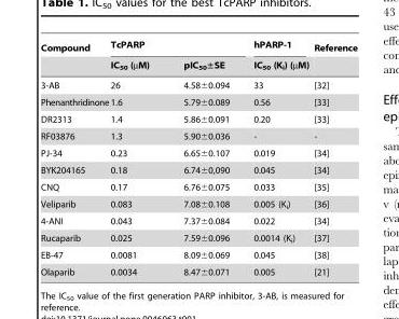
<table><thead><tr><td rowspan="2">Compound</td><td colspan="2">TcPARP</td><td rowspan="2">hPARP-1 IC<sub>50</sub> (K<sub>i</sub>) (µM)</td><td rowspan="2">Reference</td></tr><tr><td>IC<sub>50</sub> (µM)</td><td>pIC<sub>50</sub>±SE</td></tr></thead><tbody><tr><td>3-AB</td><td>26</td><td>4.58±0.094</td><td>33</td><td>[32]</td></tr><tr><td>Phenanthridinone</td><td>1.6</td><td>5.79±0.089</td><td>0.56</td><td>[33]</td></tr><tr><td>DR2313</td><td>1.4</td><td>5.86±0.091</td><td>0.20</td><td>[33]</td></tr><tr><td>RF03876</td><td>1.3</td><td>5.90±0.036</td><td>-</td><td>-</td></tr><tr><td>PJ-34</td><td>0.23</td><td>6.65±0.107</td><td>0.019</td><td>[34]</td></tr><tr><td>BYK204165</td><td>0.18</td><td>6.74±0,090</td><td>0.045</td><td>[34]</td></tr><tr><td>CNQ</td><td>0.17</td><td>6.76±0.075</td><td>0.033</td><td>[35]</td></tr><tr><td>Veliparib</td><td>0.083</td><td>7.08±0.108</td><td>0.005 (K<sub>i</sub>)</td><td>[36]</td></tr><tr><td>4-ANI</td><td>0.043</td><td>7.37±0.084</td><td>0.022</td><td>[34]</td></tr><tr><td>Rucaparib</td><td>0.025</td><td>7.59±0.096</td><td>0.0014 (K<sub>i</sub>)</td><td>[37]</td></tr><tr><td>EB-47</td><td>0.0081</td><td>8.09±0.069</td><td>0.045</td><td>[38]</td></tr><tr><td>Olaparib</td><td>0.0034</td><td>8.47±0.071</td><td>0.005</td><td>[21]</td></tr></tbody></table>